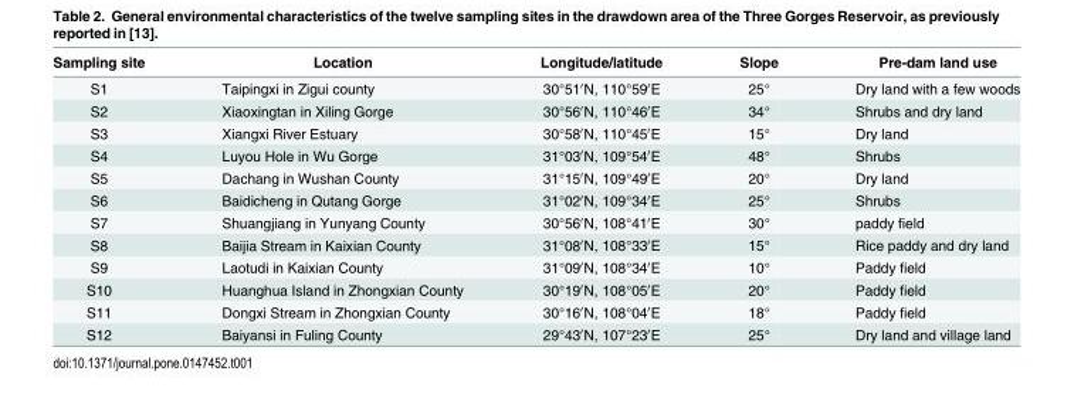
<table><thead><tr><td>Sampling site</td><td>Location</td><td>Longitude/latitude</td><td>Slope</td><td>Pre-dam land use</td></tr></thead><tbody><tr><td>S1</td><td>Taipingxi in Zigui county</td><td>30°51′N, 110°59′E</td><td>25°</td><td>Dry land with a few woods</td></tr><tr><td>S2</td><td>Xiaoxingtan in Xiling Gorge</td><td>30°56′N, 110°46′E</td><td>34°</td><td>Shrubs and dry land</td></tr><tr><td>S3</td><td>Xiangxi River Estuary</td><td>30°58′N, 110°45′E</td><td>15°</td><td>Dry land</td></tr><tr><td>S4</td><td>Luyou Hole in Wu Gorge</td><td>31°03′N, 109°54′E</td><td>48°</td><td>Shrubs</td></tr><tr><td>S5</td><td>Dachang in Wushan County</td><td>31°15′N, 109°49′E</td><td>20°</td><td>Dry land</td></tr><tr><td>S6</td><td>Baidicheng in Qutang Gorge</td><td>31°02′N, 109°34′E</td><td>25°</td><td>Shrubs</td></tr><tr><td>S7</td><td>Shuangjiang in Yunyang County</td><td>30°56′N, 108°41′E</td><td>30°</td><td>paddy field</td></tr><tr><td>S8</td><td>Baijia Stream in Kaixian County</td><td>31°08′N, 108°33′E</td><td>15°</td><td>Rice paddy and dry land</td></tr><tr><td>S9</td><td>Laotudi in Kaixian County</td><td>31°09′N, 108°34′E</td><td>10°</td><td>Paddy field</td></tr><tr><td>S10</td><td>Huanghua Island in Zhongxian County</td><td>30°19′N, 108°05′E</td><td>20°</td><td>Paddy field</td></tr><tr><td>S11</td><td>Dongxi Stream in Zhongxian County</td><td>30°16′N, 108°04′E</td><td>18°</td><td>Paddy field</td></tr><tr><td>S12</td><td>Baiyansi in Fuling County</td><td>29°43′N, 107°23′E</td><td>25°</td><td>Dry land and village land</td></tr></tbody></table>